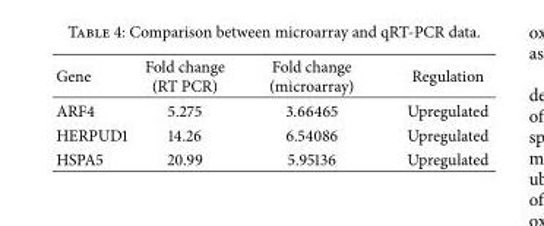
<table><thead><tr><td>Gene</td><td>Fold change (RT PCR)</td><td>Fold change (microarray)</td><td>Regulation</td></tr></thead><tbody><tr><td>ARF4</td><td>5.275</td><td>3.66465</td><td>Upregulated</td></tr><tr><td>HERPUD1</td><td>14.26</td><td>6.54086</td><td>Upregulated</td></tr><tr><td>HSPA5</td><td>20.99</td><td>5.95136</td><td>Upregulated</td></tr></tbody></table>